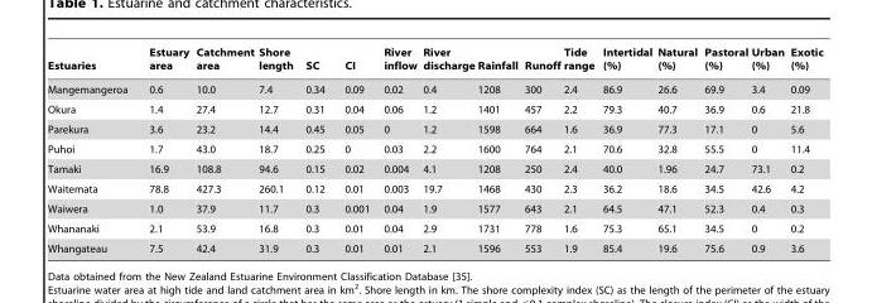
<table><thead><tr><td>Estuaries</td><td>Estuary area</td><td>Catchment area</td><td>Shore length</td><td>SC</td><td>CI</td><td>River inflow</td><td>River discharge</td><td>Rainfall</td><td>Runoff</td><td>Tide range</td><td>Intertidal (%)</td><td>Natural (%)</td><td>Pastoral (%)</td><td>Urban (%)</td><td>Exotic (%)</td></tr></thead><tbody><tr><td>Mangemangeroa</td><td>0.6</td><td>10.0</td><td>7.4</td><td>0.34</td><td>0.09</td><td>0.02</td><td>0.4</td><td>1208</td><td>300</td><td>2.4</td><td>86.9</td><td>26.6</td><td>69.9</td><td>3.4</td><td>0.09</td></tr><tr><td>Okura</td><td>1.4</td><td>27.4</td><td>12.7</td><td>0.31</td><td>0.04</td><td>0.06</td><td>1.2</td><td>1401</td><td>457</td><td>2.2</td><td>79.3</td><td>40.7</td><td>36.9</td><td>0.6</td><td>21.8</td></tr><tr><td>Parekura</td><td>3.6</td><td>23.2</td><td>14.4</td><td>0.45</td><td>0.05</td><td>0</td><td>1.2</td><td>1598</td><td>664</td><td>1.6</td><td>36.9</td><td>77.3</td><td>17.1</td><td>0</td><td>5.6</td></tr><tr><td>Puhoi</td><td>1.7</td><td>43.0</td><td>18.7</td><td>0.25</td><td>0</td><td>0.03</td><td>2.2</td><td>1600</td><td>764</td><td>2.1</td><td>70.6</td><td>32.8</td><td>55.5</td><td>0</td><td>11.4</td></tr><tr><td>Tamaki</td><td>16.9</td><td>108.8</td><td>94.6</td><td>0.15</td><td>0.02</td><td>0.004</td><td>4.1</td><td>1208</td><td>250</td><td>2.4</td><td>40.0</td><td>1.96</td><td>24.7</td><td>73.1</td><td>0.2</td></tr><tr><td>Waitemata</td><td>78.8</td><td>427.3</td><td>260.1</td><td>0.12</td><td>0.01</td><td>0.003</td><td>19.7</td><td>1468</td><td>430</td><td>2.3</td><td>36.2</td><td>18.6</td><td>34.5</td><td>42.6</td><td>4.2</td></tr><tr><td>Waiwera</td><td>1.0</td><td>37.9</td><td>11.7</td><td>0.3</td><td>0.001</td><td>0.04</td><td>1.9</td><td>1577</td><td>643</td><td>2.1</td><td>64.5</td><td>47.1</td><td>52.3</td><td>0.4</td><td>0.3</td></tr><tr><td>Whananaki</td><td>2.1</td><td>53.9</td><td>16.8</td><td>0.3</td><td>0.01</td><td>0.04</td><td>2.9</td><td>1731</td><td>778</td><td>1.6</td><td>75.3</td><td>65.1</td><td>34.5</td><td>0</td><td>0.2</td></tr><tr><td>Whangateau</td><td>7.5</td><td>42.4</td><td>31.9</td><td>0.3</td><td>0.01</td><td>0.01</td><td>2.1</td><td>1596</td><td>553</td><td>1.9</td><td>85.4</td><td>19.6</td><td>75.6</td><td>0.9</td><td>3.6</td></tr></tbody></table>